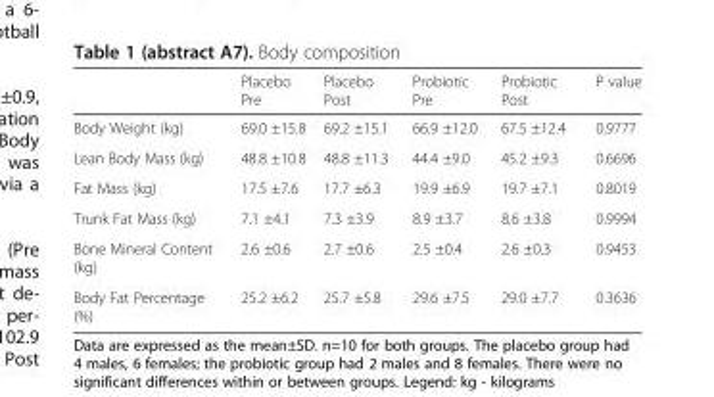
<table><thead><tr><td></td><td>Placebo Pre</td><td>Placebo Post</td><td>Probiotic Pre</td><td>Probiotic Post</td><td>P value</td></tr></thead><tbody><tr><td>Body Weight (kg)</td><td>69.0 ±15.8</td><td>69.2 ±15.1</td><td>66.9 ±12.0</td><td>67.5 ±12.4</td><td>0.9777</td></tr><tr><td>Lean Body Mass (kg)</td><td>48.8 ±10.8</td><td>48.8 ±11.3</td><td>44.4 ±9.0</td><td>45.2 ±9.3</td><td>0.6696</td></tr><tr><td>Fat Mass (kg)</td><td>17.5 ±7.6</td><td>17.7 ±6.3</td><td>19.9 ±6.9</td><td>19.7 ±7.1</td><td>0.8019</td></tr><tr><td>Trunk Fat Mass (kg)</td><td>7.1 ±4.1</td><td>7.3 ±3.9</td><td>8.9 ±3.7</td><td>8.6 ±3.8</td><td>0.9994</td></tr><tr><td>Bone Mineral Content (kg)</td><td>2.6 ±0.6</td><td>2.7 ±0.6</td><td>2.5 ±0.4</td><td>2.6 ±0.3</td><td>0.9453</td></tr><tr><td>Body Fat Percentage (%)</td><td>25.2 ±6.2</td><td>25.7 ±5.8</td><td>29.6 ±7.5</td><td>29.0 ±7.7</td><td>0.3636</td></tr></tbody></table>